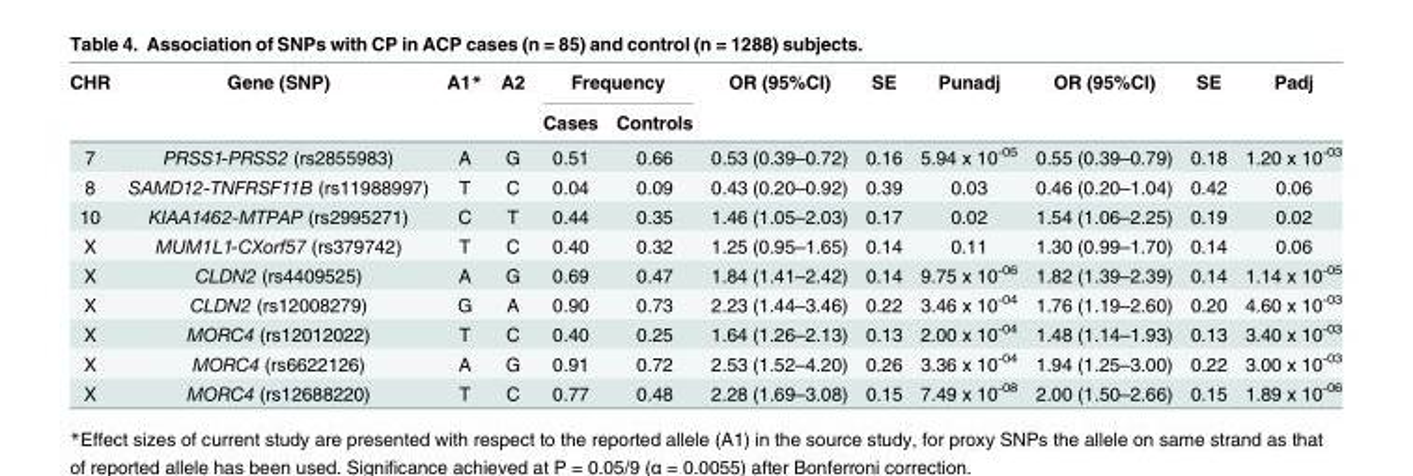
<table><thead><tr><td rowspan="2">CHR</td><td rowspan="2">Gene (SNP)</td><td rowspan="2">A1*</td><td rowspan="2">A2</td><td colspan="2">Frequency</td><td rowspan="2">OR (95%CI)</td><td rowspan="2">SE</td><td rowspan="2">Punadj</td><td rowspan="2">OR (95%CI)</td><td rowspan="2">SE</td><td rowspan="2">Padj</td></tr><tr><td>Cases</td><td>Controls</td></tr></thead><tbody><tr><td>7</td><td>PRSS1-PRSS2 (rs2855983)</td><td>A</td><td>G</td><td>0.51</td><td>0.66</td><td>0.53 (0.39–0.72)</td><td>0.16</td><td>5.94 x 10<sup>-05</sup></td><td>0.55 (0.39–0.79)</td><td>0.18</td><td>1.20 x 10<sup>-03</sup></td></tr><tr><td>8</td><td>SAMD12-TNFRSF11B (rs11988997)</td><td>T</td><td>C</td><td>0.04</td><td>0.09</td><td>0.43 (0.20–0.92)</td><td>0.39</td><td>0.03</td><td>0.46 (0.20–1.04)</td><td>0.42</td><td>0.06</td></tr><tr><td>10</td><td>KIAA1462-MTPAP (rs2995271)</td><td>C</td><td>T</td><td>0.44</td><td>0.35</td><td>1.46 (1.05–2.03)</td><td>0.17</td><td>0.02</td><td>1.54 (1.06–2.25)</td><td>0.19</td><td>0.02</td></tr><tr><td>X</td><td>MUM1L1-CXorf57 (rs379742)</td><td>T</td><td>C</td><td>0.40</td><td>0.32</td><td>1.25 (0.95–1.65)</td><td>0.14</td><td>0.11</td><td>1.30 (0.99–1.70)</td><td>0.14</td><td>0.06</td></tr><tr><td>X</td><td>CLDN2 (rs4409525)</td><td>A</td><td>G</td><td>0.69</td><td>0.47</td><td>1.84 (1.41–2.42)</td><td>0.14</td><td>9.75 x 10<sup>-06</sup></td><td>1.82 (1.39–2.39)</td><td>0.14</td><td>1.14 x 10<sup>-05</sup></td></tr><tr><td>X</td><td>CLDN2 (rs12008279)</td><td>G</td><td>A</td><td>0.90</td><td>0.73</td><td>2.23 (1.44–3.46)</td><td>0.22</td><td>3.46 x 10<sup>-04</sup></td><td>1.76 (1.19–2.60)</td><td>0.20</td><td>4.60 x 10<sup>-03</sup></td></tr><tr><td>X</td><td>MORC4 (rs12012022)</td><td>T</td><td>C</td><td>0.40</td><td>0.25</td><td>1.64 (1.26–2.13)</td><td>0.13</td><td>2.00 x 10<sup>-04</sup></td><td>1.48 (1.14–1.93)</td><td>0.13</td><td>3.40 x 10<sup>-03</sup></td></tr><tr><td>X</td><td>MORC4 (rs6622126)</td><td>A</td><td>G</td><td>0.91</td><td>0.72</td><td>2.53 (1.52–4.20)</td><td>0.26</td><td>3.36 x 10<sup>-04</sup></td><td>1.94 (1.25–3.00)</td><td>0.22</td><td>3.00 x 10<sup>-03</sup></td></tr><tr><td>X</td><td>MORC4 (rs12688220)</td><td>T</td><td>C</td><td>0.77</td><td>0.48</td><td>2.28 (1.69–3.08)</td><td>0.15</td><td>7.49 x 10<sup>-08</sup></td><td>2.00 (1.50–2.66)</td><td>0.15</td><td>1.89 x 10<sup>-06</sup></td></tr></tbody></table>